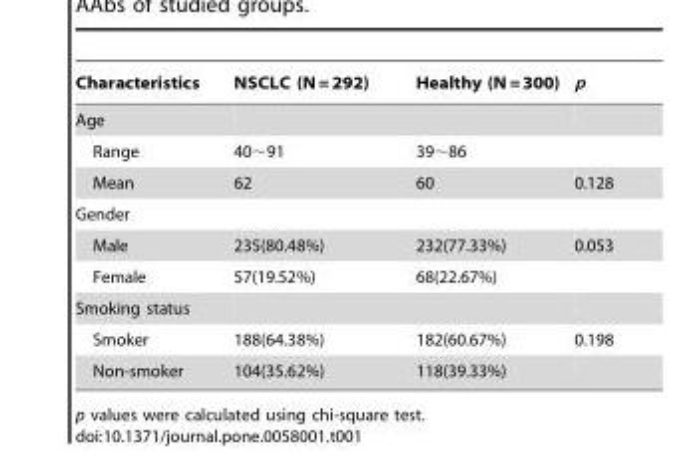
<table><thead><tr><td>Characteristics</td><td>NSCLC (N = 292)</td><td>Healthy (N = 300)</td><td>p</td></tr></thead><tbody><tr><td colspan="4">Age</td></tr><tr><td>Range</td><td>40∼91</td><td>39∼86</td><td></td></tr><tr><td>Mean</td><td>62</td><td>60</td><td>0.128</td></tr><tr><td colspan="4">Gender</td></tr><tr><td>Male</td><td>235(80.48%)</td><td>232(77.33%)</td><td>0.053</td></tr><tr><td>Female</td><td>57(19.52%)</td><td>68(22.67%)</td><td></td></tr><tr><td colspan="4">Smoking status</td></tr><tr><td>Smoker</td><td>188(64.38%)</td><td>182(60.67%)</td><td>0.198</td></tr><tr><td>Non-smoker</td><td>104(35.62%)</td><td>118(39.33%)</td><td></td></tr></tbody></table>